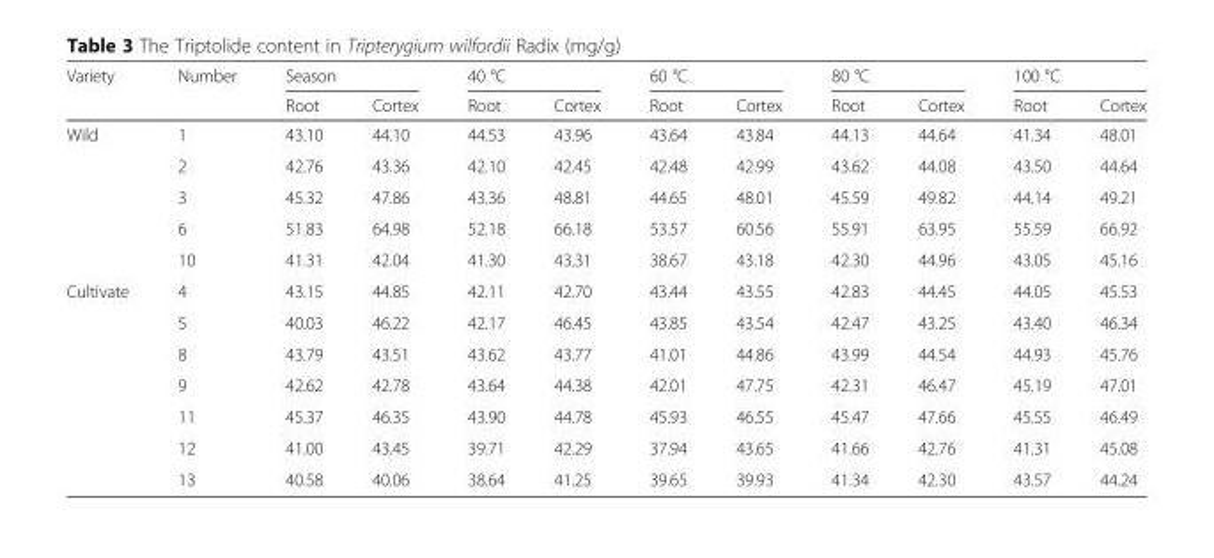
<table><thead><tr><td rowspan="2">Variety</td><td rowspan="2">Number</td><td colspan="2">Season</td><td colspan="2">40 °C</td><td colspan="2">60 °C</td><td colspan="2">80 °C</td><td colspan="2">100 °C</td></tr><tr><td>Root</td><td>Cortex</td><td>Root</td><td>Cortex</td><td>Root</td><td>Cortex</td><td>Root</td><td>Cortex</td><td>Root</td><td>Cortex</td></tr></thead><tbody><tr><td rowspan="5">Wild</td><td>1</td><td>43.10</td><td>44.10</td><td>44.53</td><td>43.96</td><td>43.64</td><td>43.84</td><td>44.13</td><td>44.64</td><td>41.34</td><td>48.01</td></tr><tr><td>2</td><td>42.76</td><td>43.36</td><td>42.10</td><td>42.45</td><td>42.48</td><td>42.99</td><td>43.62</td><td>44.08</td><td>43.50</td><td>44.64</td></tr><tr><td>3</td><td>45.32</td><td>47.86</td><td>43.36</td><td>48.81</td><td>44.65</td><td>48.01</td><td>45.59</td><td>49.82</td><td>44.14</td><td>49.21</td></tr><tr><td>6</td><td>51.83</td><td>64.98</td><td>52.18</td><td>66.18</td><td>53.57</td><td>60.56</td><td>55.91</td><td>63.95</td><td>55.59</td><td>66.92</td></tr><tr><td>10</td><td>41.31</td><td>42.04</td><td>41.30</td><td>43.31</td><td>38.67</td><td>43.18</td><td>42.30</td><td>44.96</td><td>43.05</td><td>45.16</td></tr><tr><td rowspan="7">Cultivate</td><td>4</td><td>43.15</td><td>44.85</td><td>42.11</td><td>42.70</td><td>43.44</td><td>43.55</td><td>42.83</td><td>44.45</td><td>44.05</td><td>45.53</td></tr><tr><td>5</td><td>40.03</td><td>46.22</td><td>42.17</td><td>46.45</td><td>43.85</td><td>43.54</td><td>42.47</td><td>43.25</td><td>43.40</td><td>46.34</td></tr><tr><td>8</td><td>43.79</td><td>43.51</td><td>43.62</td><td>43.77</td><td>41.01</td><td>44.86</td><td>43.99</td><td>44.54</td><td>44.93</td><td>45.76</td></tr><tr><td>9</td><td>42.62</td><td>42.78</td><td>43.64</td><td>44.38</td><td>42.01</td><td>47.75</td><td>42.31</td><td>46.47</td><td>45.19</td><td>47.01</td></tr><tr><td>11</td><td>45.37</td><td>46.35</td><td>43.90</td><td>44.78</td><td>45.93</td><td>46.55</td><td>45.47</td><td>47.66</td><td>45.55</td><td>46.49</td></tr><tr><td>12</td><td>41.00</td><td>43.45</td><td>39.71</td><td>42.29</td><td>37.94</td><td>43.65</td><td>41.66</td><td>42.76</td><td>41.31</td><td>45.08</td></tr><tr><td>13</td><td>40.58</td><td>40.06</td><td>38.64</td><td>41.25</td><td>39.65</td><td>39.93</td><td>41.34</td><td>42.30</td><td>43.57</td><td>44.24</td></tr></tbody></table>